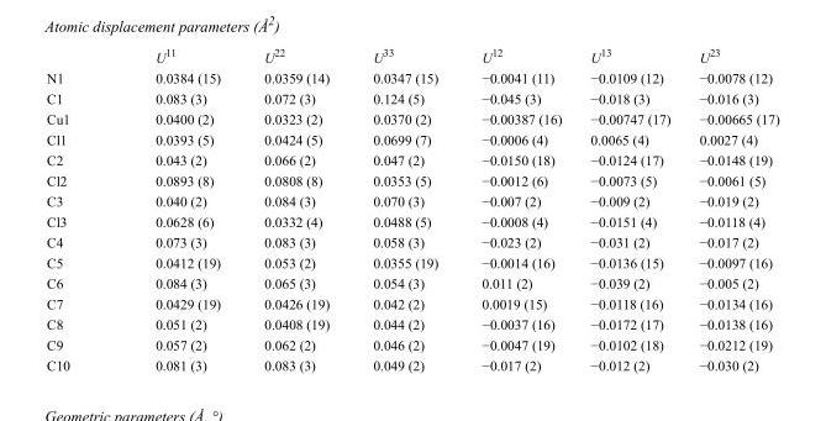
<table><thead><tr><td></td><td>U<sup>11</sup></td><td>U<sup>22</sup></td><td>U<sup>33</sup></td><td>U<sup>12</sup></td><td>U<sup>13</sup></td><td>U<sup>23</sup></td></tr></thead><tbody><tr><td>N1</td><td>0.0384 (15)</td><td>0.0359 (14)</td><td>0.0347 (15)</td><td>−0.0041 (11)</td><td>−0.0109 (12)</td><td>−0.0078 (12)</td></tr><tr><td>C1</td><td>0.083 (3)</td><td>0.072 (3)</td><td>0.124 (5)</td><td>−0.045 (3)</td><td>−0.018 (3)</td><td>−0.016 (3)</td></tr><tr><td>Cu1</td><td>0.0400 (2)</td><td>0.0323 (2)</td><td>0.0370 (2)</td><td>−0.00387 (16)</td><td>−0.00747 (17)</td><td>−0.00665 (17)</td></tr><tr><td>Cl1</td><td>0.0393 (5)</td><td>0.0424 (5)</td><td>0.0699 (7)</td><td>−0.0006 (4)</td><td>0.0065 (4)</td><td>0.0027 (4)</td></tr><tr><td>C2</td><td>0.043 (2)</td><td>0.066 (2)</td><td>0.047 (2)</td><td>−0.0150 (18)</td><td>−0.0124 (17)</td><td>−0.0148 (19)</td></tr><tr><td>Cl2</td><td>0.0893 (8)</td><td>0.0808 (8)</td><td>0.0353 (5)</td><td>−0.0012 (6)</td><td>−0.0073 (5)</td><td>−0.0061 (5)</td></tr><tr><td>C3</td><td>0.040 (2)</td><td>0.084 (3)</td><td>0.070 (3)</td><td>−0.007 (2)</td><td>−0.009 (2)</td><td>−0.019 (2)</td></tr><tr><td>Cl3</td><td>0.0628 (6)</td><td>0.0332 (4)</td><td>0.0488 (5)</td><td>−0.0008 (4)</td><td>−0.0151 (4)</td><td>−0.0118 (4)</td></tr><tr><td>C4</td><td>0.073 (3)</td><td>0.083 (3)</td><td>0.058 (3)</td><td>−0.023 (2)</td><td>−0.031 (2)</td><td>−0.017 (2)</td></tr><tr><td>C5</td><td>0.0412 (19)</td><td>0.053 (2)</td><td>0.0355 (19)</td><td>−0.0014 (16)</td><td>−0.0136 (15)</td><td>−0.0097 (16)</td></tr><tr><td>C6</td><td>0.084 (3)</td><td>0.065 (3)</td><td>0.054 (3)</td><td>0.011 (2)</td><td>−0.039 (2)</td><td>−0.005 (2)</td></tr><tr><td>C7</td><td>0.0429 (19)</td><td>0.0426 (19)</td><td>0.042 (2)</td><td>0.0019 (15)</td><td>−0.0118 (16)</td><td>−0.0134 (16)</td></tr><tr><td>C8</td><td>0.051 (2)</td><td>0.0408 (19)</td><td>0.044 (2)</td><td>−0.0037 (16)</td><td>−0.0172 (17)</td><td>−0.0138 (16)</td></tr><tr><td>C9</td><td>0.057 (2)</td><td>0.062 (2)</td><td>0.046 (2)</td><td>−0.0047 (19)</td><td>−0.0102 (18)</td><td>−0.0212 (19)</td></tr><tr><td>C10</td><td>0.081 (3)</td><td>0.083 (3)</td><td>0.049 (2)</td><td>−0.017 (2)</td><td>−0.012 (2)</td><td>−0.030 (2)</td></tr></tbody></table>